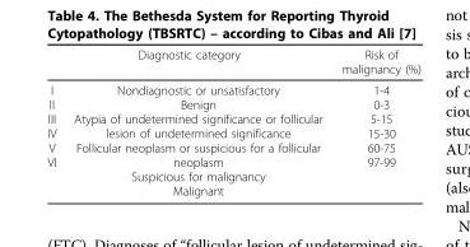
<table><thead><tr><td colspan="2">Diagnostic category</td><td rowspan="2">Risk of malignancy (%) 1-4 0-3 5-15 15-30 60-75 97-99</td></tr><tr><td>I II III IV V VI</td><td>Nondiagnostic or unsatisfactory Benign Atypia of undetermined significance or follicular lesion of undetermined significance Follicular neoplasm or suspicious for a follicular neoplasm Suspicious for malignancy Malignant</td></tr></thead><tbody></tbody></table>